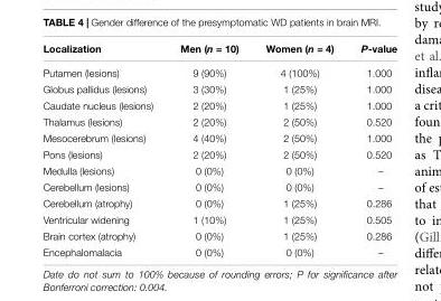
<table><thead><tr><td>Localization</td><td>Men (n = 10)</td><td>Women (n = 4)</td><td>P-value</td></tr></thead><tbody><tr><td>Putamen (lesions)</td><td>9 (90%)</td><td>4 (100%)</td><td>1.000</td></tr><tr><td>Globus pallidus (lesions)</td><td>3 (30%)</td><td>1 (25%)</td><td>1.000</td></tr><tr><td>Caudate nucleus (lesions)</td><td>2 (20%)</td><td>1 (25%)</td><td>1.000</td></tr><tr><td>Thalamus (lesions)</td><td>2 (20%)</td><td>2 (50%)</td><td>0.520</td></tr><tr><td>Mesocerebrum (lesions)</td><td>4 (40%)</td><td>2 (50%)</td><td>1.000</td></tr><tr><td>Pons (lesions)</td><td>2 (20%)</td><td>2 (50%)</td><td>0.520</td></tr><tr><td>Medulla (lesions)</td><td>0 (0%)</td><td>0 (0%)</td><td>–</td></tr><tr><td>Cerebellum (lesions)</td><td>0 (0%)</td><td>0 (0%)</td><td>–</td></tr><tr><td>Cerebellum (atrophy)</td><td>0 (0%)</td><td>1 (25%)</td><td>0.286</td></tr><tr><td>Ventricular widening</td><td>1 (10%)</td><td>1 (25%)</td><td>0.505</td></tr><tr><td>Brain cortex (atrophy)</td><td>0 (0%)</td><td>1 (25%)</td><td>0.286</td></tr><tr><td>Encephalomalacia</td><td>0 (0%)</td><td>0 (0%)</td><td>–</td></tr></tbody></table>